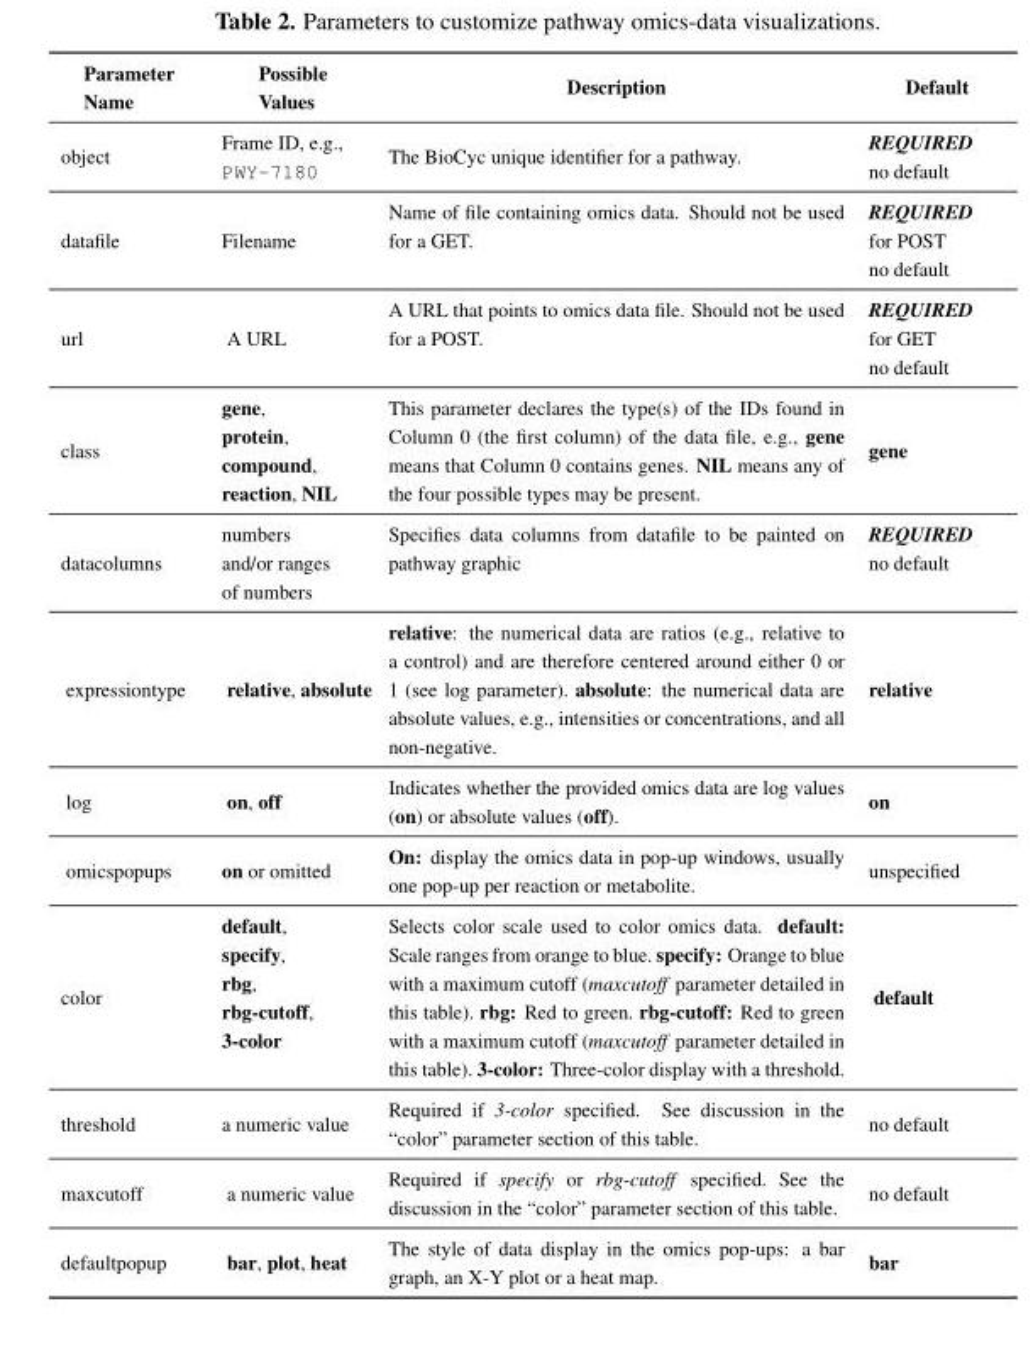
<table><thead><tr><td>Parameter Name</td><td>Possible Values</td><td>Description</td><td>Default</td></tr></thead><tbody><tr><td>object</td><td>Frame ID, e.g., PWY-7180</td><td>The BioCyc unique identifier for a pathway.</td><td>REQUIRED no default</td></tr><tr><td>datafile</td><td>Filename</td><td>Name of file containing omics data. Should not be used for a GET.</td><td>REQUIRED for POST no default</td></tr><tr><td>url</td><td>A URL</td><td>A URL that points to omics data file. Should not be used for a POST.</td><td>REQUIRED for GET no default</td></tr><tr><td>class</td><td>gene, protein, compound, reaction, NIL</td><td>This parameter declares the type(s) of the IDs found in Column 0 (the first column) of the data file, e.g., gene means that Column 0 contains genes. NIL means any of the four possible types may be present.</td><td>gene</td></tr><tr><td>datacolumns</td><td>numbers and/or ranges of numbers</td><td>Specifies data columns from datafile to be painted on pathway graphic</td><td>REQUIRED no default</td></tr><tr><td>expressiontype</td><td>relative, absolute</td><td>relative: the numerical data are ratios (e.g., relative to a control) and are therefore centered around either 0 or 1 (see log parameter). absolute: the numerical data are absolute values, e.g., intensities or concentrations, and all non-negative.</td><td>relative</td></tr><tr><td>log</td><td>on, off</td><td>Indicates whether the provided omics data are log values (on) or absolute values (off).</td><td>on</td></tr><tr><td>omicspopups</td><td>on or omitted</td><td>On: display the omics data in pop-up windows, usually one pop-up per reaction or metabolite.</td><td>unspecified</td></tr><tr><td>color</td><td>default, specify, rbg, rbg-cutoff, 3-color</td><td>Selects color scale used to color omics data. default: Scale ranges from orange to blue. specify: Orange to blue with a maximum cutoff (maxcutoff parameter detailed in this table). rbg: Red to green. rbg-cutoff: Red to green with a maximum cutoff (maxcutoff parameter detailed in this table). 3-color: Three-color display with a threshold.</td><td>default</td></tr><tr><td>threshold</td><td>a numeric value</td><td>Required if 3-color specified. See discussion in the “color” parameter section of this table.</td><td>no default</td></tr><tr><td>maxcutoff</td><td>a numeric value</td><td>Required if specify or rbg-cutoff specified. See the discussion in the “color” parameter section of this table.</td><td>no default</td></tr><tr><td>defaultpopup</td><td>bar, plot, heat</td><td>The style of data display in the omics pop-ups: a bar graph, an X-Y plot or a heat map.</td><td>bar</td></tr></tbody></table>